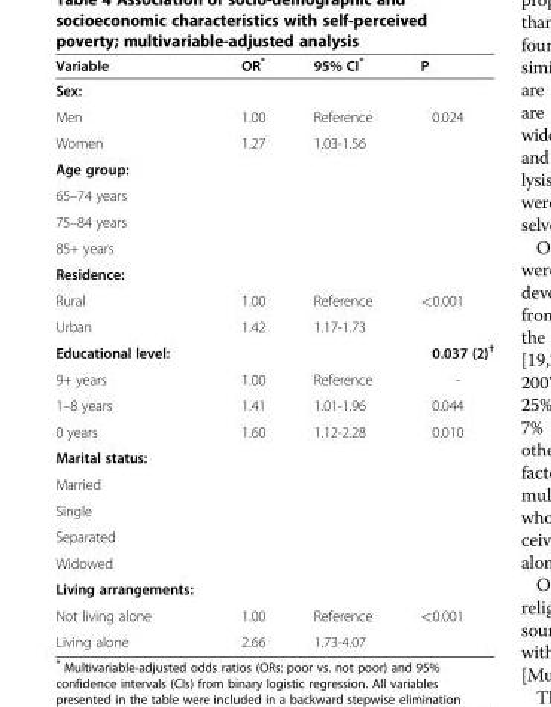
<table><thead><tr><td>Variable</td><td>OR*</td><td>95% CI*</td><td>P</td></tr></thead><tbody><tr><td colspan="4">Sex:</td></tr><tr><td>Men</td><td>1.00</td><td>Reference</td><td>0.024</td></tr><tr><td>Women</td><td>1.27</td><td>1.03-1.56</td><td></td></tr><tr><td colspan="4">Age group:</td></tr><tr><td colspan="4">65–74 years</td></tr><tr><td colspan="4">75–84 years</td></tr><tr><td colspan="4">85+ years</td></tr><tr><td colspan="4">Residence:</td></tr><tr><td>Rural</td><td>1.00</td><td>Reference</td><td>&lt;0.001</td></tr><tr><td>Urban</td><td>1.42</td><td>1.17-1.73</td><td></td></tr><tr><td>Educational level:</td><td></td><td></td><td>0.037 (2)<sup>†</sup></td></tr><tr><td>9+ years</td><td>1.00</td><td>Reference</td><td>-</td></tr><tr><td>1–8 years</td><td>1.41</td><td>1.01-1.96</td><td>0.044</td></tr><tr><td>0 years</td><td>1.60</td><td>1.12-2.28</td><td>0.010</td></tr><tr><td colspan="4">Marital status:</td></tr><tr><td colspan="4">Married</td></tr><tr><td colspan="4">Single</td></tr><tr><td colspan="4">Separated</td></tr><tr><td colspan="4">Widowed</td></tr><tr><td colspan="4">Living arrangements:</td></tr><tr><td>Not living alone</td><td>1.00</td><td>Reference</td><td>&lt;0.001</td></tr><tr><td>Living alone</td><td>2.66</td><td>1.73-4.07</td><td></td></tr></tbody></table>